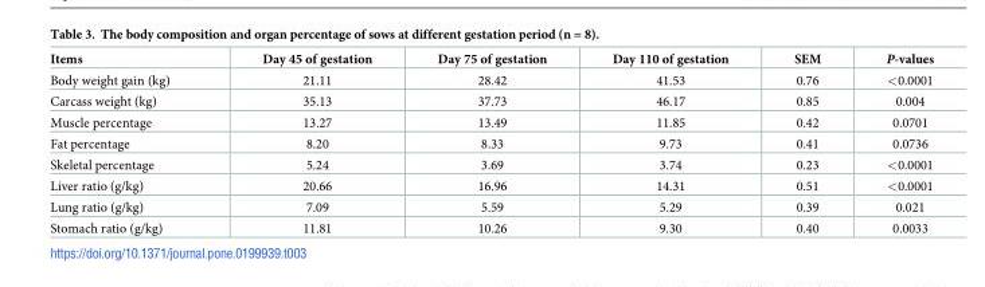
<table><thead><tr><td>Items</td><td>Day 45 of gestation</td><td>Day 75 of gestation</td><td>Day 110 of gestation</td><td>SEM</td><td>P-values</td></tr></thead><tbody><tr><td>Body weight gain (kg)</td><td>21.11</td><td>28.42</td><td>41.53</td><td>0.76</td><td>&lt;0.0001</td></tr><tr><td>Carcass weight (kg)</td><td>35.13</td><td>37.73</td><td>46.17</td><td>0.85</td><td>0.004</td></tr><tr><td>Muscle percentage</td><td>13.27</td><td>13.49</td><td>11.85</td><td>0.42</td><td>0.0701</td></tr><tr><td>Fat percentage</td><td>8.20</td><td>8.33</td><td>9.73</td><td>0.41</td><td>0.0736</td></tr><tr><td>Skeletal percentage</td><td>5.24</td><td>3.69</td><td>3.74</td><td>0.23</td><td>&lt;0.0001</td></tr><tr><td>Liver ratio (g/kg)</td><td>20.66</td><td>16.96</td><td>14.31</td><td>0.51</td><td>&lt;0.0001</td></tr><tr><td>Lung ratio (g/kg)</td><td>7.09</td><td>5.59</td><td>5.29</td><td>0.39</td><td>0.021</td></tr><tr><td>Stomach ratio (g/kg)</td><td>11.81</td><td>10.26</td><td>9.30</td><td>0.40</td><td>0.0033</td></tr></tbody></table>